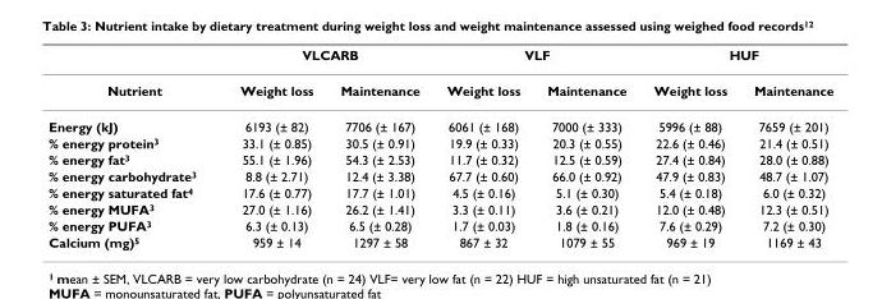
<table><thead><tr><td rowspan="2">Nutrient</td><td colspan="2">VLCARB</td><td colspan="2">VLF</td><td colspan="2">HUF</td></tr><tr><td>Weight loss</td><td>Maintenance</td><td>Weight loss</td><td>Maintenance</td><td>Weight loss</td><td>Maintenance</td></tr></thead><tbody><tr><td>Energy (kJ)</td><td>6193 (± 82)</td><td>7706 (± 167)</td><td>6061 (± 168)</td><td>7000 (± 333)</td><td>5996 (± 88)</td><td>7659 (± 201)</td></tr><tr><td>% energy protein<sup>3</sup></td><td>33.1 (± 0.85)</td><td>30.5 (± 0.91)</td><td>19.9 (± 0.33)</td><td>20.3 (± 0.55)</td><td>22.6 (± 0.46)</td><td>21.4 (± 0.51)</td></tr><tr><td>% energy fat<sup>3</sup></td><td>55.1 (± 1.96)</td><td>54.3 (± 2.53)</td><td>11.7 (± 0.32)</td><td>12.5 (± 0.59)</td><td>27.4 (± 0.84)</td><td>28.0 (± 0.88)</td></tr><tr><td>% energy carbohydrate<sup>3</sup></td><td>8.8 (± 2.71)</td><td>12.4 (± 3.38)</td><td>67.7 (± 0.60)</td><td>66.0 (± 0.92)</td><td>47.9 (± 0.83)</td><td>48.7 (± 1.07)</td></tr><tr><td>% energy saturated fat<sup>4</sup></td><td>17.6 (± 0.77)</td><td>17.7 (± 1.01)</td><td>4.5 (± 0.16)</td><td>5.1 (± 0.30)</td><td>5.4 (± 0.18)</td><td>6.0 (± 0.32)</td></tr><tr><td>% energy MUFA<sup>3</sup></td><td>27.0 (± 1.16)</td><td>26.2 (± 1.41)</td><td>3.3 (± 0.11)</td><td>3.6 (± 0.21)</td><td>12.0 (± 0.48)</td><td>12.3 (± 0.51)</td></tr><tr><td>% energy PUFA<sup>3</sup></td><td>6.3 (± 0.13)</td><td>6.5 (± 0.28)</td><td>1.7 (± 0.03)</td><td>1.8 (± 0.16)</td><td>7.6 (± 0.29)</td><td>7.2 (± 0.30)</td></tr><tr><td>Calcium (mg)<sup>5</sup></td><td>959 ± 14</td><td>1297 ± 58</td><td>867 ± 32</td><td>1079 ± 55</td><td>969 ± 19</td><td>1169 ± 43</td></tr></tbody></table>